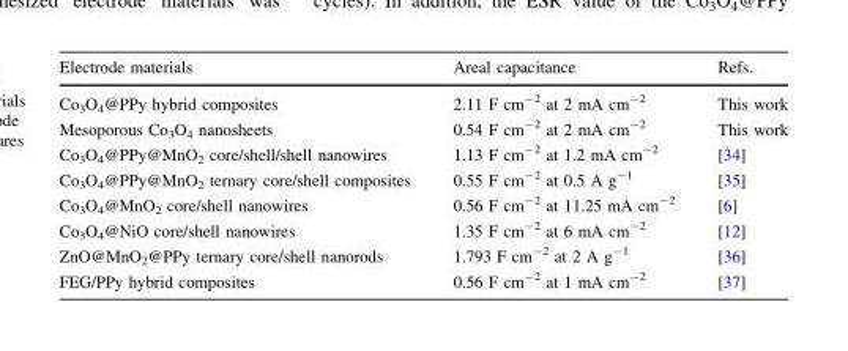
<table><thead><tr><td>Electrode materials</td><td>Areal capacitance</td><td>Refs.</td></tr></thead><tbody><tr><td>Co<sub>3</sub>O<sub>4</sub>@PPy hybrid composites</td><td>2.11 F cm<sup>-2</sup> at 2 mA cm<sup>-2</sup></td><td>This work</td></tr><tr><td>Mesoporous Co<sub>3</sub>O<sub>4</sub> nanosheets</td><td>0.54 F cm<sup>-2</sup> at 2 mA cm<sup>-2</sup></td><td>This work</td></tr><tr><td>Co<sub>3</sub>O<sub>4</sub>@PPy@MnO<sub>2</sub> core/shell/shell nanowires</td><td>1.13 F cm<sup>-2</sup> at 1.2 mA cm<sup>-2</sup></td><td>[34]</td></tr><tr><td>Co<sub>3</sub>O<sub>4</sub>@PPy@MnO<sub>2</sub> ternary core/shell composites</td><td>0.55 F cm<sup>-2</sup> at 0.5 A g<sup>-1</sup></td><td>[35]</td></tr><tr><td>Co<sub>3</sub>O<sub>4</sub>@MnO<sub>2</sub> core/shell nanowires</td><td>0.56 F cm<sup>-2</sup> at 11.25 mA cm<sup>-2</sup></td><td>[6]</td></tr><tr><td>Co<sub>3</sub>O<sub>4</sub>@NiO core/shell nanowires</td><td>1.35 F cm<sup>-2</sup> at 6 mA cm<sup>-2</sup></td><td>[12]</td></tr><tr><td>ZnO@MnO<sub>2</sub>@PPy ternary core/shell nanorods</td><td>1.793 F cm<sup>-2</sup> at 2 A g<sup>-1</sup></td><td>[36]</td></tr><tr><td>FEG/PPy hybrid composites</td><td>0.56 F cm<sup>-2</sup> at 1 mA cm<sup>-2</sup></td><td>[37]</td></tr></tbody></table>